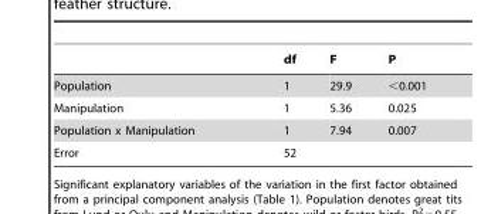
<table><thead><tr><td></td><td>df</td><td>F</td><td>P</td></tr></thead><tbody><tr><td>Population</td><td>1</td><td>29.9</td><td>&lt;0.001</td></tr><tr><td>Manipulation</td><td>1</td><td>5.36</td><td>0.025</td></tr><tr><td>Population x Manipulation</td><td>1</td><td>7.94</td><td>0.007</td></tr><tr><td>Error</td><td>52</td><td></td><td></td></tr></tbody></table>